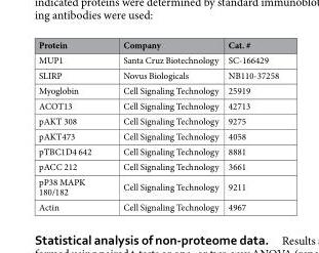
<table><thead><tr><td>Protein</td><td>Company</td><td>Cat. #</td></tr></thead><tbody><tr><td>MUP1</td><td>Santa Cruz Biotechnology</td><td>SC-166429</td></tr><tr><td>SLIRP</td><td>Novus Biologicals</td><td>NB110-37258</td></tr><tr><td>Myoglobin</td><td>Cell Signaling Technology</td><td>25919</td></tr><tr><td>ACOT13</td><td>Cell Signaling Technology</td><td>42713</td></tr><tr><td>pAKT 308</td><td>Cell Signaling Technology</td><td>9275</td></tr><tr><td>pAKT473</td><td>Cell Signaling Technology</td><td>4058</td></tr><tr><td>pTBC1D4 642</td><td>Cell Signaling Technology</td><td>8881</td></tr><tr><td>pACC 212</td><td>Cell Signaling Technology</td><td>3661</td></tr><tr><td>pP38 MAPK 180/182</td><td>Cell Signaling Technology</td><td>9211</td></tr><tr><td>Actin</td><td>Cell Signaling Technology</td><td>4967</td></tr></tbody></table>